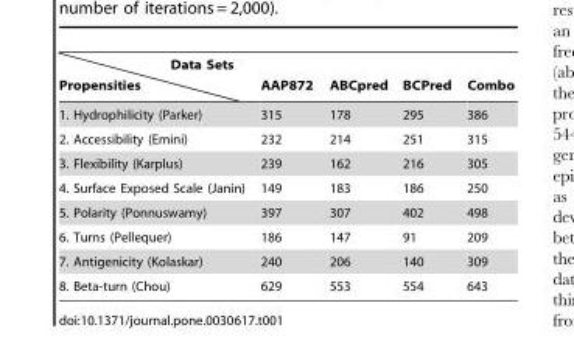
<table><thead><tr><td>Data Sets Propensities</td><td>AAP872</td><td>ABCpred</td><td>BCPred</td><td>Combo</td></tr></thead><tbody><tr><td>1. Hydrophilicity (Parker)</td><td>315</td><td>178</td><td>295</td><td>386</td></tr><tr><td>2. Accessibility (Emini)</td><td>232</td><td>214</td><td>251</td><td>315</td></tr><tr><td>3. Flexibility (Karplus)</td><td>239</td><td>162</td><td>216</td><td>305</td></tr><tr><td>4. Surface Exposed Scale (Janin)</td><td>149</td><td>183</td><td>186</td><td>250</td></tr><tr><td>5. Polarity (Ponnuswamy)</td><td>397</td><td>307</td><td>402</td><td>498</td></tr><tr><td>6. Turns (Pellequer)</td><td>186</td><td>147</td><td>91</td><td>209</td></tr><tr><td>7. Antigenicity (Kolaskar)</td><td>240</td><td>206</td><td>140</td><td>309</td></tr><tr><td>8. Beta-turn (Chou)</td><td>629</td><td>553</td><td>554</td><td>643</td></tr></tbody></table>